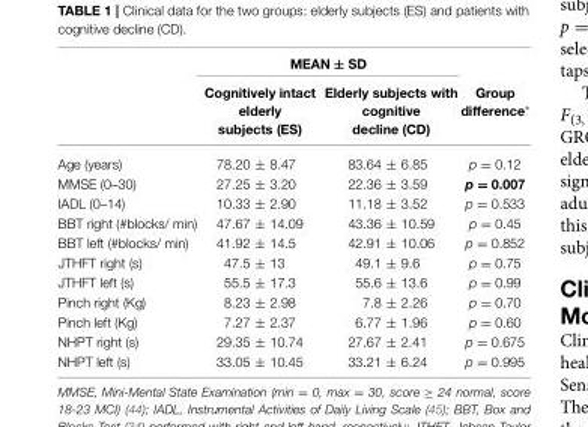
<table><thead><tr><td rowspan="2"></td><td colspan="2">MEAN ± SD</td><td rowspan="2">Group difference*</td></tr><tr><td>Cognitively intact elderly subjects (ES)</td><td>Elderly subjects with cognitive decline (CD)</td></tr></thead><tbody><tr><td>Age (years)</td><td>78.20 ± 8.47</td><td>83.64 ± 6.85</td><td>p = 0.12</td></tr><tr><td>MMSE (0–30)</td><td>27.25 ± 3.20</td><td>22.36 ± 3.59</td><td>p = 0.007</td></tr><tr><td>IADL (0–14)</td><td>10.33 ± 2.90</td><td>11.18 ± 3.52</td><td>p = 0.533</td></tr><tr><td>BBT right (#blocks/ min)</td><td>47.67 ± 14.09</td><td>43.36 ± 10.59</td><td>p = 0.45</td></tr><tr><td>BBT left (#blocks/ min)</td><td>41.92 ± 14.5</td><td>42.91 ± 10.06</td><td>p = 0.852</td></tr><tr><td>JTHFT right (s)</td><td>47.5 ± 13</td><td>49.1 ± 9.6</td><td>p = 0.75</td></tr><tr><td>JTHFT left (s)</td><td>55.5 ± 17.3</td><td>55.6 ± 13.6</td><td>p = 0.99</td></tr><tr><td>Pinch right (Kg)</td><td>8.23 ± 2.98</td><td>7.8 ± 2.26</td><td>p = 0.70</td></tr><tr><td>Pinch left (Kg)</td><td>7.27 ± 2.37</td><td>6.77 ± 1.96</td><td>p = 0.60</td></tr><tr><td>NHPT right (s)</td><td>29.35 ± 10.74</td><td>27.67 ± 2.41</td><td>p = 0.675</td></tr><tr><td>NHPT left (s)</td><td>33.05 ± 10.45</td><td>33.21 ± 6.24</td><td>p = 0.995</td></tr></tbody></table>